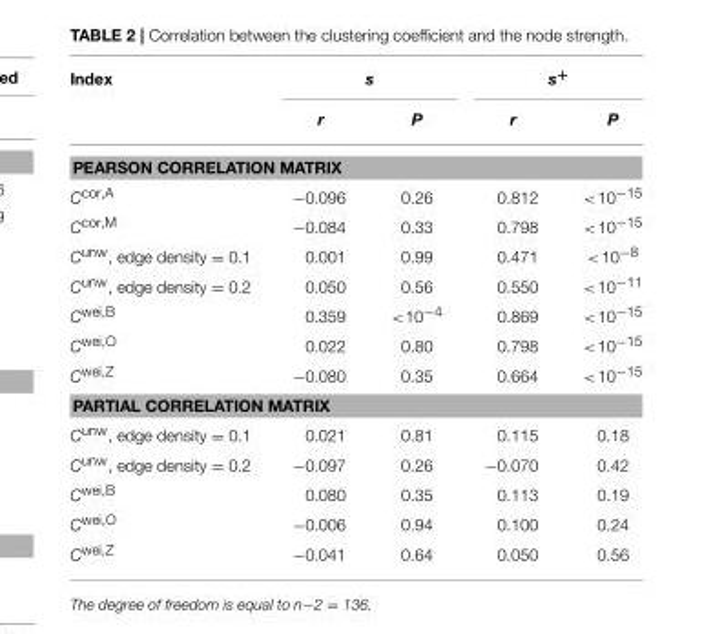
<table><thead><tr><td rowspan="2">Index</td><td colspan="2">s</td><td colspan="2">s<sup>+</sup></td></tr><tr><td>r</td><td>P</td><td>r</td><td>P</td></tr></thead><tbody><tr><td colspan="5">PEARSON CORRELATION MATRIX</td></tr><tr><td>C<sup>cor,A</sup></td><td>−0.096</td><td>0.26</td><td>0.812</td><td>&lt;10<sup>−15</sup></td></tr><tr><td>C<sup>cor,M</sup></td><td>−0.084</td><td>0.33</td><td>0.798</td><td>&lt;10<sup>−15</sup></td></tr><tr><td>C<sup>unw</sup>, edge density = 0.1</td><td>0.001</td><td>0.99</td><td>0.471</td><td>&lt;10<sup>−8</sup></td></tr><tr><td>C<sup>unw</sup>, edge density = 0.2</td><td>0.050</td><td>0.56</td><td>0.550</td><td>&lt;10<sup>−11</sup></td></tr><tr><td>C<sup>wei,B</sup></td><td>0.359</td><td>&lt;10<sup>−4</sup></td><td>0.869</td><td>&lt;10<sup>−15</sup></td></tr><tr><td>C<sup>wei,O</sup></td><td>0.022</td><td>0.80</td><td>0.798</td><td>&lt;10<sup>−15</sup></td></tr><tr><td>C<sup>wei,Z</sup></td><td>−0.080</td><td>0.35</td><td>0.664</td><td>&lt;10<sup>−15</sup></td></tr><tr><td colspan="5">PARTIAL CORRELATION MATRIX</td></tr><tr><td>C<sup>unw</sup>, edge density = 0.1</td><td>0.021</td><td>0.81</td><td>0.115</td><td>0.18</td></tr><tr><td>C<sup>unw</sup>, edge density = 0.2</td><td>−0.097</td><td>0.26</td><td>−0.070</td><td>0.42</td></tr><tr><td>C<sup>wei,B</sup></td><td>0.080</td><td>0.35</td><td>0.113</td><td>0.19</td></tr><tr><td>C<sup>wei,O</sup></td><td>−0.006</td><td>0.94</td><td>0.100</td><td>0.24</td></tr><tr><td>C<sup>wei,Z</sup></td><td>−0.041</td><td>0.64</td><td>0.050</td><td>0.56</td></tr></tbody></table>